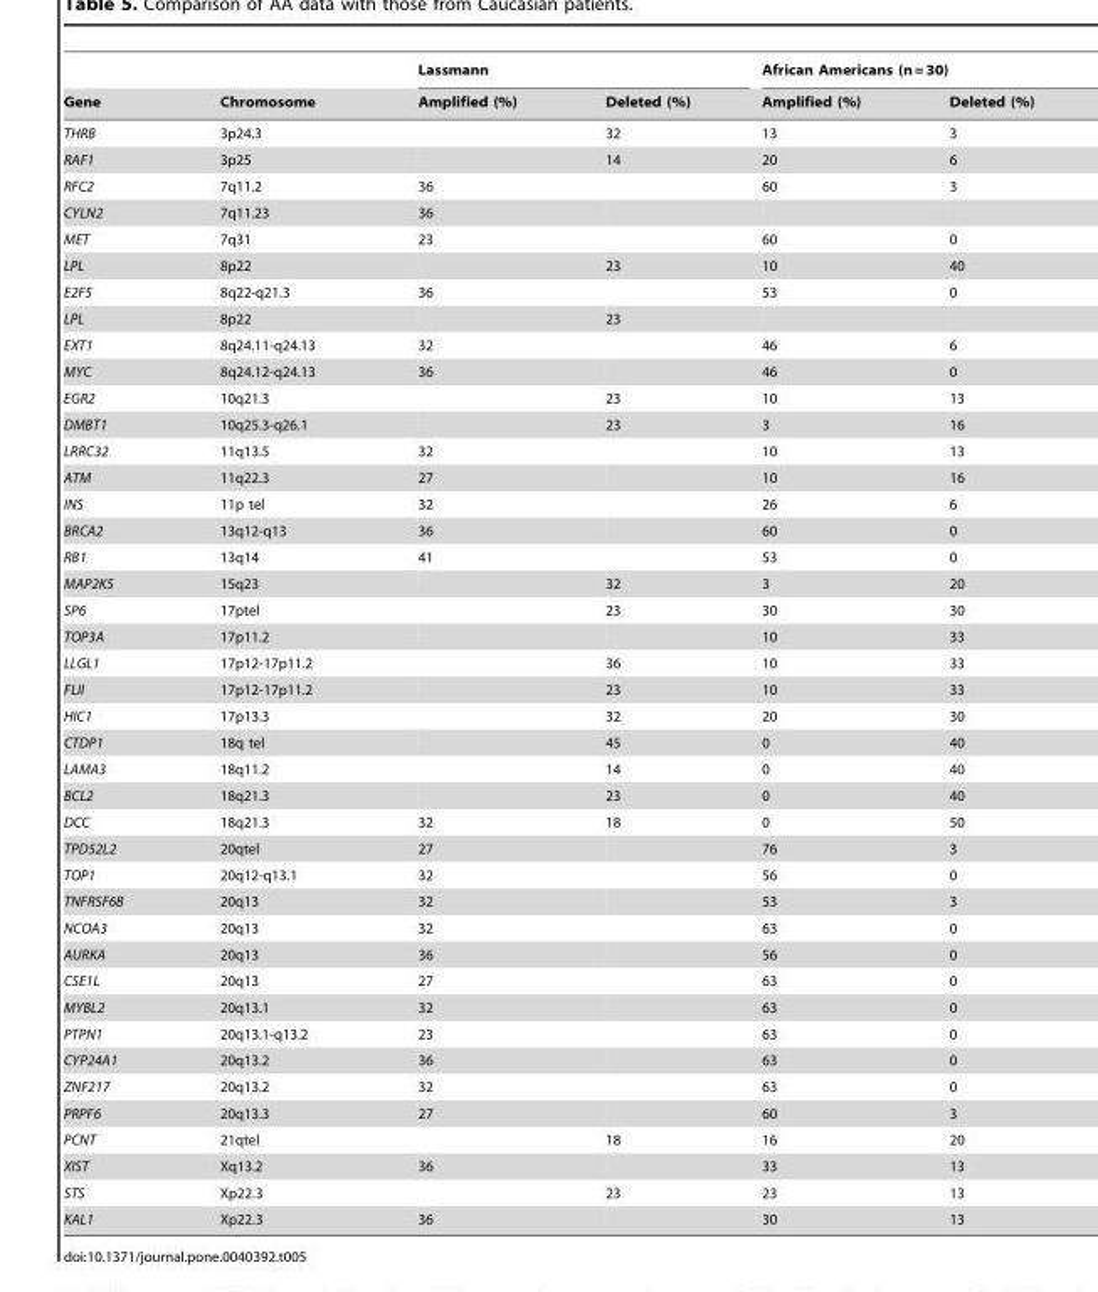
<table><thead><tr><td rowspan="2">Gene</td><td rowspan="2">Chromosome</td><td colspan="2">Lassmann</td><td colspan="2">African Americans (n = 30)</td></tr><tr><td>Amplified (%)</td><td>Deleted (%)</td><td>Amplified (%)</td><td>Deleted (%)</td></tr></thead><tbody><tr><td>THRB</td><td>3p24.3</td><td></td><td>32</td><td>13</td><td>3</td></tr><tr><td>RAF1</td><td>3p25</td><td></td><td>14</td><td>20</td><td>6</td></tr><tr><td>RFC2</td><td>7q11.2</td><td>36</td><td></td><td>60</td><td>3</td></tr><tr><td>CYLN2</td><td>7q11.23</td><td>36</td><td></td><td></td><td></td></tr><tr><td>MET</td><td>7q31</td><td>23</td><td></td><td>60</td><td>0</td></tr><tr><td>LPL</td><td>8p22</td><td></td><td>23</td><td>10</td><td>40</td></tr><tr><td>E2F5</td><td>8q22-q21.3</td><td>36</td><td></td><td>53</td><td>0</td></tr><tr><td>LPL</td><td>8p22</td><td></td><td>23</td><td></td><td></td></tr><tr><td>EXT1</td><td>8q24.11-q24.13</td><td>32</td><td></td><td>46</td><td>6</td></tr><tr><td>MYC</td><td>8q24.12-q24.13</td><td>36</td><td></td><td>46</td><td>0</td></tr><tr><td>EGR2</td><td>10q21.3</td><td></td><td>23</td><td>10</td><td>13</td></tr><tr><td>DMBT1</td><td>10q25.3-q26.1</td><td></td><td>23</td><td>3</td><td>16</td></tr><tr><td>LRRC32</td><td>11q13.5</td><td>32</td><td></td><td>10</td><td>13</td></tr><tr><td>ATM</td><td>11q22.3</td><td>27</td><td></td><td>10</td><td>16</td></tr><tr><td>INS</td><td>11p tel</td><td>32</td><td></td><td>26</td><td>6</td></tr><tr><td>BRCA2</td><td>13q12-q13</td><td>36</td><td></td><td>60</td><td>0</td></tr><tr><td>RB1</td><td>13q14</td><td>41</td><td></td><td>53</td><td>0</td></tr><tr><td>MAP2K5</td><td>15q23</td><td></td><td>32</td><td>3</td><td>20</td></tr><tr><td>SP6</td><td>17ptel</td><td></td><td>23</td><td>30</td><td>30</td></tr><tr><td>TOP3A</td><td>17p11.2</td><td></td><td></td><td>10</td><td>33</td></tr><tr><td>LLGL1</td><td>17p12-17p11.2</td><td></td><td>36</td><td>10</td><td>33</td></tr><tr><td>FLII</td><td>17p12-17p11.2</td><td></td><td>23</td><td>10</td><td>33</td></tr><tr><td>HIC1</td><td>17p13.3</td><td></td><td>32</td><td>20</td><td>30</td></tr><tr><td>CTDP1</td><td>18q tel</td><td></td><td>45</td><td>0</td><td>40</td></tr><tr><td>LAMA3</td><td>18q11.2</td><td></td><td>14</td><td>0</td><td>40</td></tr><tr><td>BCL2</td><td>18q21.3</td><td></td><td>23</td><td>0</td><td>40</td></tr><tr><td>DCC</td><td>18q21.3</td><td>32</td><td>18</td><td>0</td><td>50</td></tr><tr><td>TPD52L2</td><td>20qtel</td><td>27</td><td></td><td>76</td><td>3</td></tr><tr><td>TOP1</td><td>20q12-q13.1</td><td>32</td><td></td><td>56</td><td>0</td></tr><tr><td>TNFRSF6B</td><td>20q13</td><td>32</td><td></td><td>53</td><td>3</td></tr><tr><td>NCOA3</td><td>20q13</td><td>32</td><td></td><td>63</td><td>0</td></tr><tr><td>AURKA</td><td>20q13</td><td>36</td><td></td><td>56</td><td>0</td></tr><tr><td>CSE1L</td><td>20q13</td><td>27</td><td></td><td>63</td><td>0</td></tr><tr><td>MYBL2</td><td>20q13.1</td><td>32</td><td></td><td>63</td><td>0</td></tr><tr><td>PTPN1</td><td>20q13.1-q13.2</td><td>23</td><td></td><td>63</td><td>0</td></tr><tr><td>CYP24A1</td><td>20q13.2</td><td>36</td><td></td><td>63</td><td>0</td></tr><tr><td>ZNF217</td><td>20q13.2</td><td>32</td><td></td><td>63</td><td>0</td></tr><tr><td>PRPF6</td><td>20q13.3</td><td>27</td><td></td><td>60</td><td>3</td></tr><tr><td>PCNT</td><td>21qtel</td><td></td><td>18</td><td>16</td><td>20</td></tr><tr><td>XIST</td><td>Xq13.2</td><td>36</td><td></td><td>33</td><td>13</td></tr><tr><td>STS</td><td>Xp22.3</td><td></td><td>23</td><td>23</td><td>13</td></tr><tr><td>KAL1</td><td>Xp22.3</td><td>36</td><td></td><td>30</td><td>13</td></tr></tbody></table>